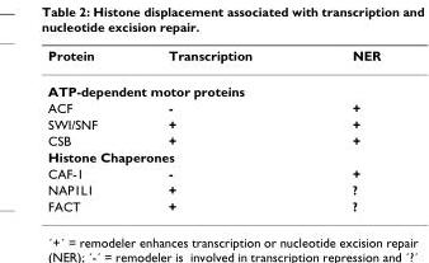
<table><thead><tr><td>Protein</td><td>Transcription</td><td>NER</td></tr></thead><tbody><tr><td colspan="3">ATP-dependent motor proteins</td></tr><tr><td>ACF</td><td>-</td><td>+</td></tr><tr><td>SWI/SNF</td><td>+</td><td>+</td></tr><tr><td>CSB</td><td>+</td><td>+</td></tr><tr><td colspan="3">Histone Chaperones</td></tr><tr><td>CAF-1</td><td>-</td><td>+</td></tr><tr><td>NAP1L1</td><td>+</td><td>?</td></tr><tr><td>FACT</td><td>+</td><td>?</td></tr></tbody></table>